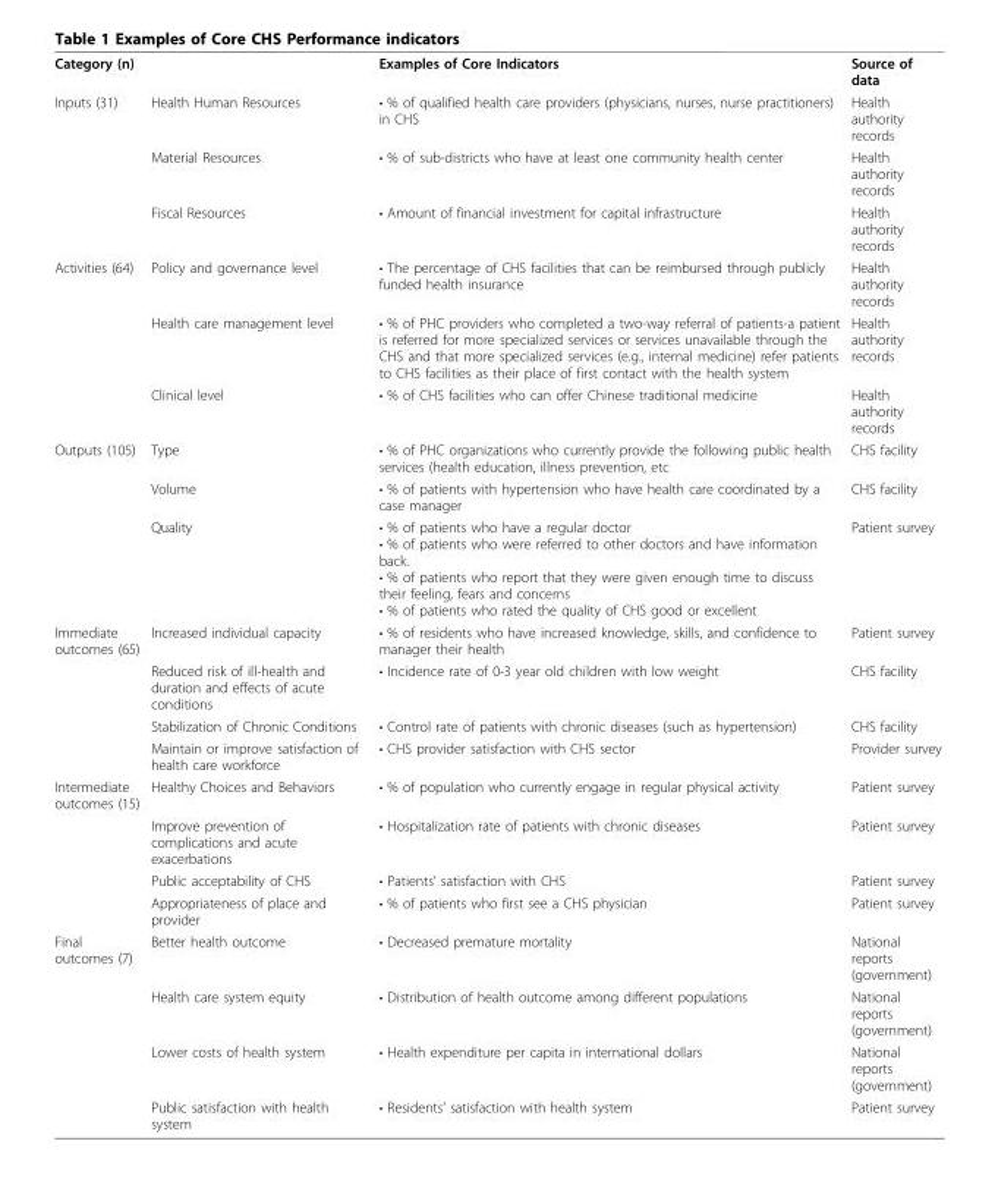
<table><tbody><tr><td colspan="2">Category (n)</td><td>Examples of Core Indicators</td><td>Source of data</td></tr><tr><td rowspan="3">Inputs (31)</td><td>Health Human Resources</td><td>• % of qualified health care providers (physicians, nurses, nurse practitioners) in CHS</td><td>Health authority records</td></tr><tr><td>Material Resources</td><td>• % of sub-districts who have at least one community health center</td><td>Health authority records</td></tr><tr><td>Fiscal Resources</td><td>• Amount of financial investment for capital infrastructure</td><td>Health authority records</td></tr><tr><td rowspan="3">Activities (64)</td><td>Policy and governance level</td><td>• The percentage of CHS facilities that can be reimbursed through publicly funded health insurance</td><td>Health authority records</td></tr><tr><td>Health care management level</td><td>• % of PHC providers who completed a two-way referral of patients-a patient is referred for more specialized services or services unavailable through the CHS and that more specialized services (e.g., internal medicine) refer patients to CHS facilities as their place of first contact with the health system</td><td>Health authority records</td></tr><tr><td>Clinical level</td><td>• % of CHS facilities who can offer Chinese traditional medicine</td><td>Health authority records</td></tr><tr><td rowspan="3">Outputs (105)</td><td>Type</td><td>• % of PHC organizations who currently provide the following public health services (health education, illness prevention, etc</td><td>CHS facility</td></tr><tr><td>Volume</td><td>• % of patients with hypertension who have health care coordinated by a case manager</td><td>CHS facility</td></tr><tr><td>Quality</td><td>• % of patients who have a regular doctor • % of patients who were referred to other doctors and have information back. • % of patients who report that they were given enough time to discuss their feeling, fears and concerns • % of patients who rated the quality of CHS good or excellent</td><td>Patient survey</td></tr><tr><td rowspan="4">Immediate outcomes (65)</td><td>Increased individual capacity</td><td>• % of residents who have increased knowledge, skills, and confidence to manager their health</td><td>Patient survey</td></tr><tr><td>Reduced risk of ill-health and duration and effects of acute conditions</td><td>• Incidence rate of 0-3 year old children with low weight</td><td>CHS facility</td></tr><tr><td>Stabilization of Chronic Conditions</td><td>• Control rate of patients with chronic diseases (such as hypertension)</td><td>CHS facility</td></tr><tr><td>Maintain or improve satisfaction of health care workforce</td><td>• CHS provider satisfaction with CHS sector</td><td>Provider survey</td></tr><tr><td rowspan="4">Intermediate outcomes (15)</td><td>Healthy Choices and Behaviors</td><td>• % of population who currently engage in regular physical activity</td><td>Patient survey</td></tr><tr><td>Improve prevention of complications and acute exacerbations</td><td>• Hospitalization rate of patients with chronic diseases</td><td>Patient survey</td></tr><tr><td>Public acceptability of CHS</td><td>• Patients’ satisfaction with CHS</td><td>Patient survey</td></tr><tr><td>Appropriateness of place and provider</td><td>• % of patients who first see a CHS physician</td><td>Patient survey</td></tr><tr><td rowspan="4">Final outcomes (7)</td><td>Better health outcome</td><td>• Decreased premature mortality</td><td>National reports (government)</td></tr><tr><td>Health care system equity</td><td>• Distribution of health outcome among different populations</td><td>National reports (government)</td></tr><tr><td>Lower costs of health system</td><td>• Health expenditure per capita in international dollars</td><td>National reports (government)</td></tr><tr><td>Public satisfaction with health system</td><td>• Residents’ satisfaction with health system</td><td>Patient survey</td></tr></tbody></table>